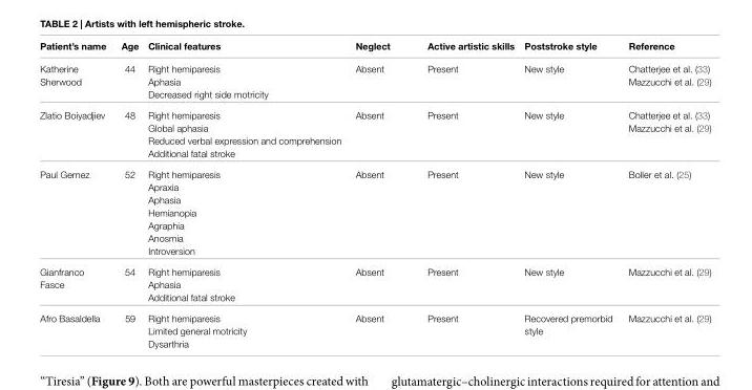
<table><thead><tr><td>Patient’s name</td><td>Age</td><td>Clinical features</td><td>Neglect</td><td>Active artistic skills</td><td>Poststroke style</td><td>Reference</td></tr></thead><tbody><tr><td>Katherine Sherwood</td><td>44</td><td>Right hemiparesis Aphasia Decreased right side motricity</td><td>Absent</td><td>Present</td><td>New style</td><td>Chatterjee et al. (33) Mazzucchi et al. (29)</td></tr><tr><td>Zlatio Boiyadjiev</td><td>48</td><td>Right hemiparesis Global aphasia Reduced verbal expression and comprehension Additional fatal stroke</td><td>Absent</td><td>Present</td><td>New style</td><td>Chatterjee et al. (33) Mazzucchi et al. (29)</td></tr><tr><td>Paul Gernez</td><td>52</td><td>Right hemiparesis Apraxia Aphasia Hemianopia Agraphia Anosmia Introversion</td><td>Absent</td><td>Present</td><td>New style</td><td>Boller et al. (25)</td></tr><tr><td>Gianfranco Fasce</td><td>54</td><td>Right hemiparesis Aphasia Additional fatal stroke</td><td>Absent</td><td>Present</td><td>New style</td><td>Mazzucchi et al. (29)</td></tr><tr><td>Afro Basaldella</td><td>59</td><td>Right hemiparesis Limited general motricity Dysarthria</td><td>Absent</td><td>Present</td><td>Recovered premorbid style</td><td>Mazzucchi et al. (29)</td></tr></tbody></table>